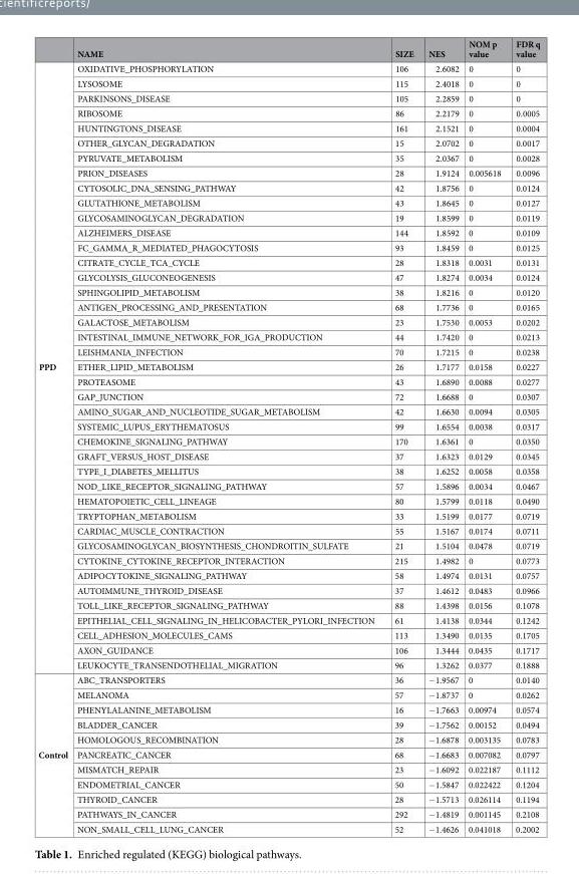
<table><thead><tr><td></td><td>NAME</td><td>SIZE</td><td>NES</td><td>NOM p value</td><td>FDR q value</td></tr></thead><tbody><tr><td rowspan="41">PPD</td><td>OXIDATIVE_PHOSPHORYLATION</td><td>106</td><td>2.6082</td><td>0</td><td>0</td></tr><tr><td>LYSOSOME</td><td>115</td><td>2.4018</td><td>0</td><td>0</td></tr><tr><td>PARKINSONS_DISEASE</td><td>105</td><td>2.2859</td><td>0</td><td>0</td></tr><tr><td>RIBOSOME</td><td>86</td><td>2.2179</td><td>0</td><td>0.0005</td></tr><tr><td>HUNTINGTONS_DISEASE</td><td>161</td><td>2.1521</td><td>0</td><td>0.0004</td></tr><tr><td>OTHER_GLYCAN_DEGRADATION</td><td>15</td><td>2.0702</td><td>0</td><td>0.0017</td></tr><tr><td>PYRUVATE_METABOLISM</td><td>35</td><td>2.0367</td><td>0</td><td>0.0028</td></tr><tr><td>PRION_DISEASES</td><td>28</td><td>1.9124</td><td>0.005618</td><td>0.0096</td></tr><tr><td>CYTOSOLIC_DNA_SENSING_PATHWAY</td><td>42</td><td>1.8756</td><td>0</td><td>0.0124</td></tr><tr><td>GLUTATHIONE_METABOLISM</td><td>43</td><td>1.8645</td><td>0</td><td>0.0127</td></tr><tr><td>GLYCOSAMINOGLYCAN_DEGRADATION</td><td>19</td><td>1.8599</td><td>0</td><td>0.0119</td></tr><tr><td>ALZHEIMERS_DISEASE</td><td>144</td><td>1.8592</td><td>0</td><td>0.0109</td></tr><tr><td>FC_GAMMA_R_MEDIATED_PHAGOCYTOSIS</td><td>93</td><td>1.8459</td><td>0</td><td>0.0125</td></tr><tr><td>CITRATE_CYCLE_TCA_CYCLE</td><td>28</td><td>1.8318</td><td>0.0031</td><td>0.0131</td></tr><tr><td>GLYCOLYSIS_GLUCONEOGENESIS</td><td>47</td><td>1.8274</td><td>0.0034</td><td>0.0124</td></tr><tr><td>SPHINGOLIPID_METABOLISM</td><td>38</td><td>1.8216</td><td>0</td><td>0.0120</td></tr><tr><td>ANTIGEN_PROCESSING_AND_PRESENTATION</td><td>68</td><td>1.7736</td><td>0</td><td>0.0165</td></tr><tr><td>GALACTOSE_METABOLISM</td><td>23</td><td>1.7530</td><td>0.0053</td><td>0.0202</td></tr><tr><td>INTESTINAL_IMMUNE_NETWORK_FOR_IGA_PRODUCTION</td><td>44</td><td>1.7420</td><td>0</td><td>0.0213</td></tr><tr><td>LEISHMANIA_INFECTION</td><td>70</td><td>1.7215</td><td>0</td><td>0.0238</td></tr><tr><td>ETHER_LIPID_METABOLISM</td><td>26</td><td>1.7177</td><td>0.0158</td><td>0.0227</td></tr><tr><td>PROTEASOME</td><td>43</td><td>1.6890</td><td>0.0088</td><td>0.0277</td></tr><tr><td>GAP_JUNCTION</td><td>72</td><td>1.6688</td><td>0</td><td>0.0307</td></tr><tr><td>AMINO_SUGAR_AND_NUCLEOTIDE_SUGAR_METABOLISM</td><td>42</td><td>1.6630</td><td>0.0094</td><td>0.0305</td></tr><tr><td>SYSTEMIC_LUPUS_ERYTHEMATOSUS</td><td>99</td><td>1.6554</td><td>0.0038</td><td>0.0317</td></tr><tr><td>CHEMOKINE_SIGNALING_PATHWAY</td><td>170</td><td>1.6361</td><td>0</td><td>0.0350</td></tr><tr><td>GRAFT_VERSUS_HOST_DISEASE</td><td>37</td><td>1.6323</td><td>0.0129</td><td>0.0345</td></tr><tr><td>TYPE_I_DIABETES_MELLITUS</td><td>38</td><td>1.6252</td><td>0.0058</td><td>0.0358</td></tr><tr><td>NOD_LIKE_RECEPTOR_SIGNALING_PATHWAY</td><td>57</td><td>1.5896</td><td>0.0034</td><td>0.0467</td></tr><tr><td>HEMATOPOIETIC_CELL_LINEAGE</td><td>80</td><td>1.5799</td><td>0.0118</td><td>0.0490</td></tr><tr><td>TRYPTOPHAN_METABOLISM</td><td>33</td><td>1.5199</td><td>0.0177</td><td>0.0719</td></tr><tr><td>CARDIAC_MUSCLE_CONTRACTION</td><td>55</td><td>1.5167</td><td>0.0174</td><td>0.0711</td></tr><tr><td>GLYCOSAMINOGLYCAN_BIOSYNTHESIS_CHONDROITIN_SULFATE</td><td>21</td><td>1.5104</td><td>0.0478</td><td>0.0719</td></tr><tr><td>CYTOKINE_CYTOKINE_RECEPTOR_INTERACTION</td><td>215</td><td>1.4982</td><td>0</td><td>0.0773</td></tr><tr><td>ADIPOCYTOKINE_SIGNALING_PATHWAY</td><td>58</td><td>1.4974</td><td>0.0131</td><td>0.0757</td></tr><tr><td>AUTOIMMUNE_THYROID_DISEASE</td><td>37</td><td>1.4612</td><td>0.0483</td><td>0.0966</td></tr><tr><td>TOLL_LIKE_RECEPTOR_SIGNALING_PATHWAY</td><td>88</td><td>1.4398</td><td>0.0156</td><td>0.1078</td></tr><tr><td>EPITHELIAL_CELL_SIGNALING_IN_HELICOBACTER_PYLORI_INFECTION</td><td>61</td><td>1.4138</td><td>0.0344</td><td>0.1242</td></tr><tr><td>CELL_ADHESION_MOLECULES_CAMS</td><td>113</td><td>1.3490</td><td>0.0135</td><td>0.1705</td></tr><tr><td>AXON_GUIDANCE</td><td>106</td><td>1.3444</td><td>0.0435</td><td>0.1717</td></tr><tr><td>LEUKOCYTE_TRANSENDOTHELIAL_MIGRATION</td><td>96</td><td>1.3262</td><td>0.0377</td><td>0.1888</td></tr><tr><td rowspan="11">Control</td><td>ABC_TRANSPORTERS</td><td>36</td><td>−1.9567</td><td>0</td><td>0.0140</td></tr><tr><td>MELANOMA</td><td>57</td><td>−1.8737</td><td>0</td><td>0.0262</td></tr><tr><td>PHENYLALANINE_METABOLISM</td><td>16</td><td>−1.7663</td><td>0.00974</td><td>0.0574</td></tr><tr><td>BLADDER_CANCER</td><td>39</td><td>−1.7562</td><td>0.00152</td><td>0.0494</td></tr><tr><td>HOMOLOGOUS_RECOMBINATION</td><td>28</td><td>−1.6878</td><td>0.003135</td><td>0.0783</td></tr><tr><td>PANCREATIC_CANCER</td><td>68</td><td>−1.6683</td><td>0.007082</td><td>0.0797</td></tr><tr><td>MISMATCH_REPAIR</td><td>23</td><td>−1.6092</td><td>0.022187</td><td>0.1112</td></tr><tr><td>ENDOMETRIAL_CANCER</td><td>50</td><td>−1.5847</td><td>0.022422</td><td>0.1204</td></tr><tr><td>THYROID_CANCER</td><td>28</td><td>−1.5713</td><td>0.026114</td><td>0.1194</td></tr><tr><td>PATHWAYS_IN_CANCER</td><td>292</td><td>−1.4819</td><td>0.001145</td><td>0.2108</td></tr><tr><td>NON_SMALL_CELL_LUNG_CANCER</td><td>52</td><td>−1.4626</td><td>0.041018</td><td>0.2002</td></tr></tbody></table>